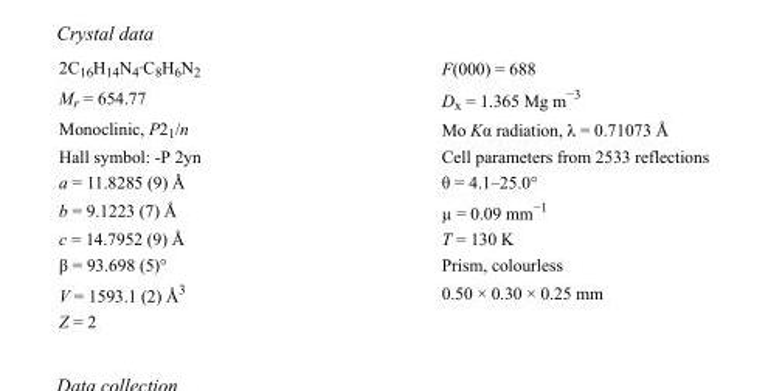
<table><tbody><tr><td>2C<sub>16</sub>H<sub>14</sub>N<sub>4</sub>·C<sub>8</sub>H<sub>6</sub>N<sub>2</sub></td><td>F(000) = 688</td></tr><tr><td>M<sub>r</sub> = 654.77</td><td>D<sub>x</sub> = 1.365 Mg m<sup>−3</sup></td></tr><tr><td>Monoclinic, P2<sub>1</sub>/n</td><td>Mo Kα radiation, λ = 0.71073 Å</td></tr><tr><td>Hall symbol: -P 2yn</td><td>Cell parameters from 2533 reflections</td></tr><tr><td>a = 11.8285 (9) Å</td><td>θ = 4.1–25.0°</td></tr><tr><td>b = 9.1223 (7) Å</td><td>µ = 0.09 mm<sup>−1</sup></td></tr><tr><td>c = 14.7952 (9) Å</td><td>T = 130 K</td></tr><tr><td>β = 93.698 (5)°</td><td>Prism, colourless</td></tr><tr><td>V = 1593.1 (2) Å<sup>3</sup></td><td>0.50 × 0.30 × 0.25 mm</td></tr><tr><td>Z = 2</td><td></td></tr></tbody></table>